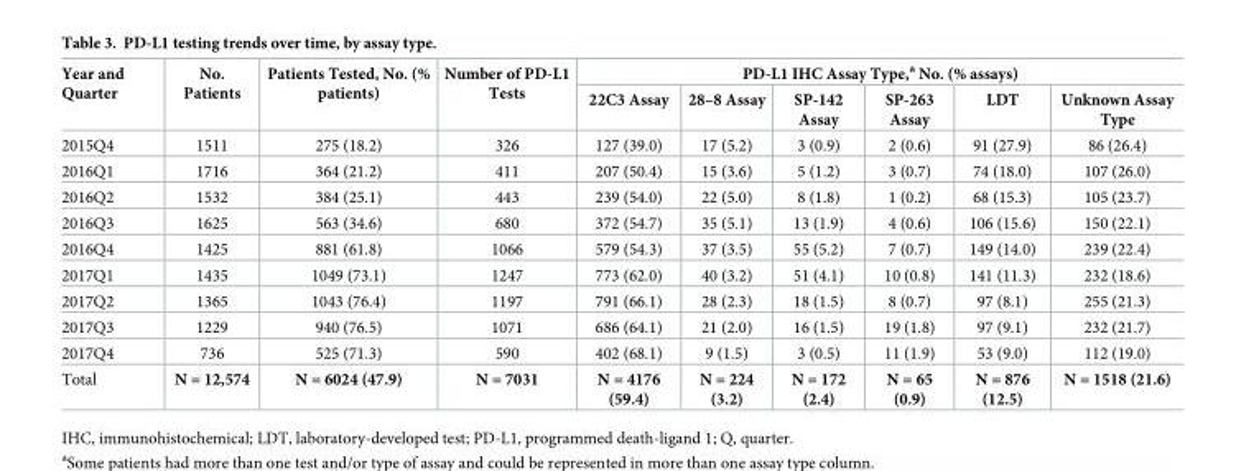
<table><thead><tr><td rowspan="2">Year and Quarter</td><td rowspan="2">No. Patients</td><td rowspan="2">Patients Tested, No. (% patients)</td><td rowspan="2">Number of PD-L1 Tests</td><td colspan="6">PD-L1 IHC Assay Type,<sup>a</sup> No. (% assays)</td></tr><tr><td>22C3 Assay</td><td>28–8 Assay</td><td>SP-142 Assay</td><td>SP-263 Assay</td><td>LDT</td><td>Unknown Assay Type</td></tr></thead><tbody><tr><td>2015Q4</td><td>1511</td><td>275 (18.2)</td><td>326</td><td>127 (39.0)</td><td>17 (5.2)</td><td>3 (0.9)</td><td>2 (0.6)</td><td>91 (27.9)</td><td>86 (26.4)</td></tr><tr><td>2016Q1</td><td>1716</td><td>364 (21.2)</td><td>411</td><td>207 (50.4)</td><td>15 (3.6)</td><td>5 (1.2)</td><td>3 (0.7)</td><td>74 (18.0)</td><td>107 (26.0)</td></tr><tr><td>2016Q2</td><td>1532</td><td>384 (25.1)</td><td>443</td><td>239 (54.0)</td><td>22 (5.0)</td><td>8 (1.8)</td><td>1 (0.2)</td><td>68 (15.3)</td><td>105 (23.7)</td></tr><tr><td>2016Q3</td><td>1625</td><td>563 (34.6)</td><td>680</td><td>372 (54.7)</td><td>35 (5.1)</td><td>13 (1.9)</td><td>4 (0.6)</td><td>106 (15.6)</td><td>150 (22.1)</td></tr><tr><td>2016Q4</td><td>1425</td><td>881 (61.8)</td><td>1066</td><td>579 (54.3)</td><td>37 (3.5)</td><td>55 (5.2)</td><td>7 (0.7)</td><td>149 (14.0)</td><td>239 (22.4)</td></tr><tr><td>2017Q1</td><td>1435</td><td>1049 (73.1)</td><td>1247</td><td>773 (62.0)</td><td>40 (3.2)</td><td>51 (4.1)</td><td>10 (0.8)</td><td>141 (11.3)</td><td>232 (18.6)</td></tr><tr><td>2017Q2</td><td>1365</td><td>1043 (76.4)</td><td>1197</td><td>791 (66.1)</td><td>28 (2.3)</td><td>18 (1.5)</td><td>8 (0.7)</td><td>97 (8.1)</td><td>255 (21.3)</td></tr><tr><td>2017Q3</td><td>1229</td><td>940 (76.5)</td><td>1071</td><td>686 (64.1)</td><td>21 (2.0)</td><td>16 (1.5)</td><td>19 (1.8)</td><td>97 (9.1)</td><td>232 (21.7)</td></tr><tr><td>2017Q4</td><td>736</td><td>525 (71.3)</td><td>590</td><td>402 (68.1)</td><td>9 (1.5)</td><td>3 (0.5)</td><td>11 (1.9)</td><td>53 (9.0)</td><td>112 (19.0)</td></tr><tr><td>Total</td><td>N = 12,574</td><td>N = 6024 (47.9)</td><td>N = 7031</td><td>N = 4176 (59.4)</td><td>N = 224 (3.2)</td><td>N = 172 (2.4)</td><td>N = 65 (0.9)</td><td>N = 876 (12.5)</td><td>N = 1518 (21.6)</td></tr></tbody></table>